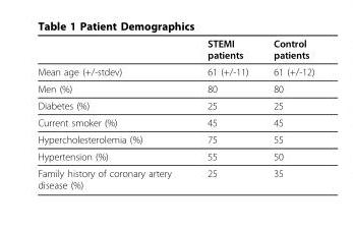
<table><thead><tr><td></td><td>STEMI patients</td><td>Control patients</td></tr></thead><tbody><tr><td>Mean age (+/-stdev)</td><td>61 (+/-11)</td><td>61 (+/-12)</td></tr><tr><td>Men (%)</td><td>80</td><td>80</td></tr><tr><td>Diabetes (%)</td><td>25</td><td>25</td></tr><tr><td>Current smoker (%)</td><td>45</td><td>45</td></tr><tr><td>Hypercholesterolemia (%)</td><td>75</td><td>55</td></tr><tr><td>Hypertension (%)</td><td>55</td><td>50</td></tr><tr><td>Family history of coronary artery disease (%)</td><td>25</td><td>35</td></tr></tbody></table>